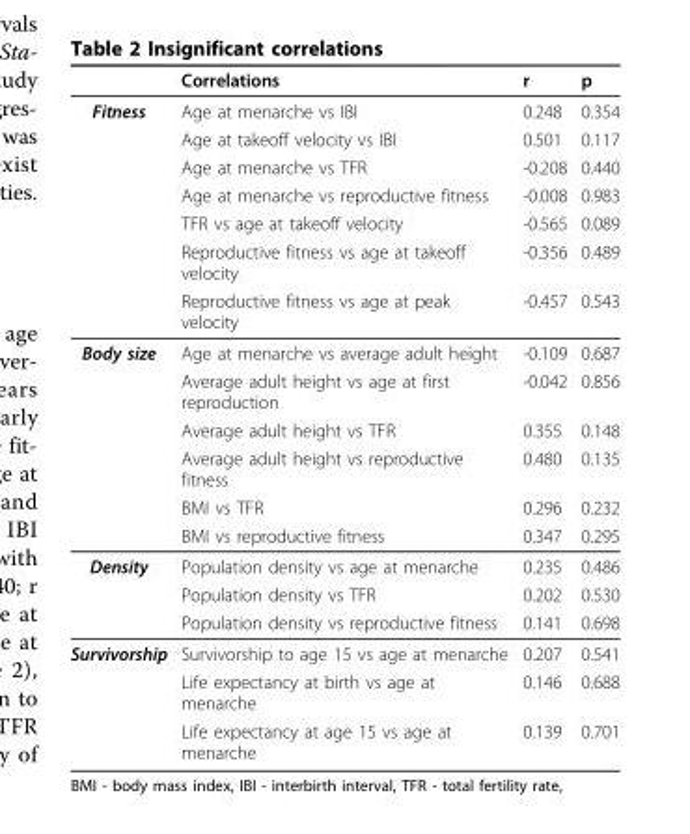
<table><thead><tr><td></td><td>Correlations</td><td>r</td><td>p</td></tr></thead><tbody><tr><td rowspan="7">Fitness</td><td>Age at menarche vs IBI</td><td>0.248</td><td>0.354</td></tr><tr><td>Age at takeoff velocity vs IBI</td><td>0.501</td><td>0.117</td></tr><tr><td>Age at menarche vs TFR</td><td>-0.208</td><td>0.440</td></tr><tr><td>Age at menarche vs reproductive fitness</td><td>-0.008</td><td>0.983</td></tr><tr><td>TFR vs age at takeoff velocity</td><td>-0.565</td><td>0.089</td></tr><tr><td>Reproductive fitness vs age at takeoff velocity</td><td>-0.356</td><td>0.489</td></tr><tr><td>Reproductive fitness vs age at peak velocity</td><td>-0.457</td><td>0.543</td></tr><tr><td rowspan="6">Body size</td><td>Age at menarche vs average adult height</td><td>-0.109</td><td>0.687</td></tr><tr><td>Average adult height vs age at first reproduction</td><td>-0.042</td><td>0.856</td></tr><tr><td>Average adult height vs TFR</td><td>0.355</td><td>0.148</td></tr><tr><td>Average adult height vs reproductive fitness</td><td>0.480</td><td>0.135</td></tr><tr><td>BMI vs TFR</td><td>0.296</td><td>0.232</td></tr><tr><td>BMI vs reproductive fitness</td><td>0.347</td><td>0.295</td></tr><tr><td rowspan="3">Density</td><td>Population density vs age at menarche</td><td>0.235</td><td>0.486</td></tr><tr><td>Population density vs TFR</td><td>0.202</td><td>0.530</td></tr><tr><td>Population density vs reproductive fitness</td><td>0.141</td><td>0.698</td></tr><tr><td rowspan="3">Survivorship</td><td>Survivorship to age 15 vs age at menarche</td><td>0.207</td><td>0.541</td></tr><tr><td>Life expectancy at birth vs age at menarche</td><td>0.146</td><td>0.688</td></tr><tr><td>Life expectancy at age 15 vs age at menarche</td><td>0.139</td><td>0.701</td></tr></tbody></table>